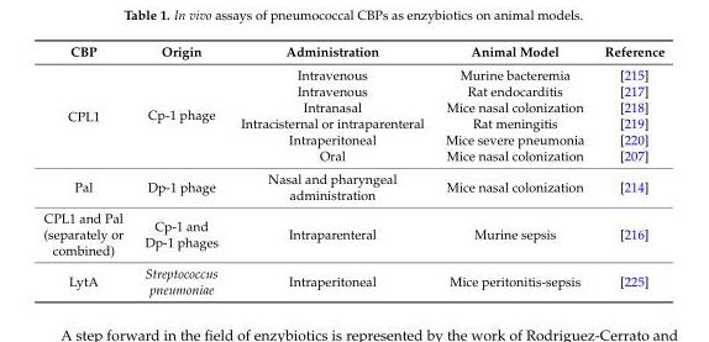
<table><thead><tr><td>CBP</td><td>Origin</td><td>Administration</td><td>Animal Model</td><td>Reference</td></tr></thead><tbody><tr><td rowspan="6">CPL1</td><td rowspan="6">Cp-1 phage</td><td>Intravenous</td><td>Murine bacteremia</td><td>[215]</td></tr><tr><td>Intravenous</td><td>Rat endocarditis</td><td>[217]</td></tr><tr><td>Intranasal</td><td>Mice nasal colonization</td><td>[218]</td></tr><tr><td>Intracisternal or intraparenteral</td><td>Rat meningitis</td><td>[219]</td></tr><tr><td>Intraperitoneal</td><td>Mice severe pneumonia</td><td>[220]</td></tr><tr><td>Oral</td><td>Mice nasal colonization</td><td>[207]</td></tr><tr><td>Pal</td><td>Dp-1 phage</td><td>Nasal and pharyngeal administration</td><td>Mice nasal colonization</td><td>[214]</td></tr><tr><td>CPL1 and Pal (separately or combined)</td><td>Cp-1 and Dp-1 phages</td><td>Intraparenteral</td><td>Murine sepsis</td><td>[216]</td></tr><tr><td>LytA</td><td>Streptococcus pneumoniae</td><td>Intraperitoneal</td><td>Mice peritonitis-sepsis</td><td>[225]</td></tr></tbody></table>